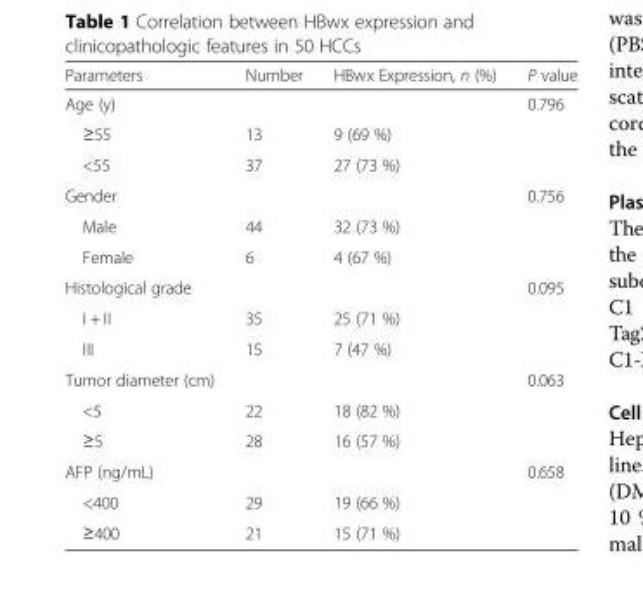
<table><thead><tr><td>Parameters</td><td>Number</td><td>HBwx Expression, n (%)</td><td>P value</td></tr></thead><tbody><tr><td>Age (y)</td><td></td><td></td><td>0.796</td></tr><tr><td>≥55</td><td>13</td><td>9 (69 %)</td><td></td></tr><tr><td>&lt;55</td><td>37</td><td>27 (73 %)</td><td></td></tr><tr><td>Gender</td><td></td><td></td><td>0.756</td></tr><tr><td>Male</td><td>44</td><td>32 (73 %)</td><td></td></tr><tr><td>Female</td><td>6</td><td>4 (67 %)</td><td></td></tr><tr><td>Histological grade</td><td></td><td></td><td>0.095</td></tr><tr><td>I + II</td><td>35</td><td>25 (71 %)</td><td></td></tr><tr><td>III</td><td>15</td><td>7 (47 %)</td><td></td></tr><tr><td>Tumor diameter (cm)</td><td></td><td></td><td>0.063</td></tr><tr><td>&lt;5</td><td>22</td><td>18 (82 %)</td><td></td></tr><tr><td>≥5</td><td>28</td><td>16 (57 %)</td><td></td></tr><tr><td>AFP (ng/mL)</td><td></td><td></td><td>0.658</td></tr><tr><td>&lt;400</td><td>29</td><td>19 (66 %)</td><td></td></tr><tr><td>≥400</td><td>21</td><td>15 (71 %)</td><td></td></tr></tbody></table>